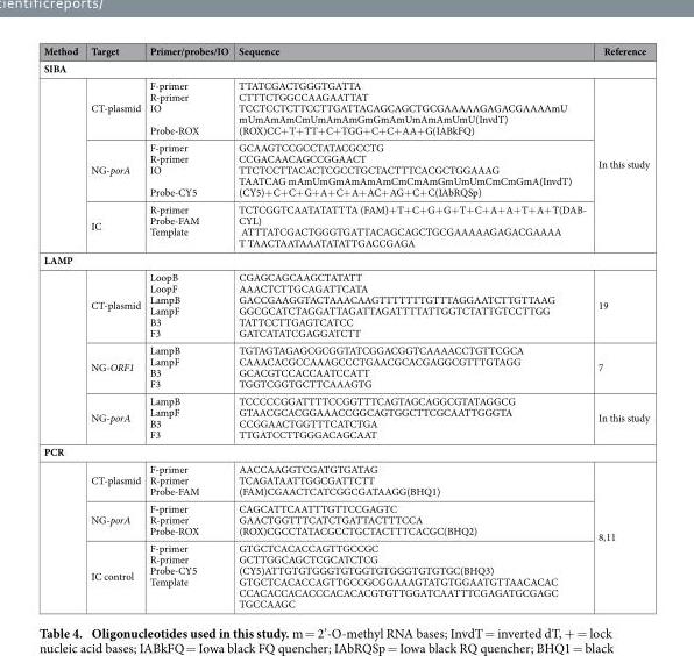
<table><thead><tr><td>Method</td><td>Target</td><td>Primer/probes/IO</td><td>Sequence</td><td>Reference</td></tr></thead><tbody><tr><td colspan="5">SIBA</td></tr><tr><td rowspan="3"></td><td>CT-plasmid</td><td>F-primer R-primer IO Probe-ROX</td><td>TTATCGACTGGGTGATTA CTTTCTGGCCAAGAATTAT TCCTCCTCTTCCTTGATTACAGCAGCTGCGAAAAAGAGACGAAAAmU mUmAmAmCmUmAmAmGmGmAmUmAmAmUmU(InvdT) (ROX)CC+ T+ TT+ C+ TGG+ C+ C+ AA+ G(IABkFQ)</td><td rowspan="3">In this study</td></tr><tr><td>NG-porA</td><td>F-primer R-primer IO Probe-CY5</td><td>GCAAGTCCGCCTATACGCCTG CCGACAACAGCCGGAACT TTCTCCTTACACTCGCCTGCTACTTTCACGCTGGAAAG TAATCAG mAmUmGmAmAmAmCmCmAmGmUmUmCmCmGmA(InvdT) (CY5)+ C+ C+ G+ A+ C+ A+ AC+ AG+ C+ C(IAbRQSp)</td></tr><tr><td>IC</td><td>R-primer Probe-FAM Template</td><td>TCTCGGTCAATATATTTA (FAM)+ T+ C+ G+ G+ T+ C+ A+ A+ T+ A+ T(DAB- CYL) ATTTATCGACTGGGTGATTACAGCAGCTGCGAAAAAGAGACGAAAA T TAACTAATAAATATATTGACCGAGA</td></tr><tr><td colspan="5">LAMP</td></tr><tr><td rowspan="3"></td><td>CT-plasmid</td><td>LoopB LoopF LampB LampF B3 F3</td><td>CGAGCAGCAAGCTATATT AAACTCTTGCAGATTCATA GACCGAAGGTACTAAACAAGTTTTTTTGTTTAGGAATCTTGTTAAG GGCGCATCTAGGATTAGATTAGATTTTATTGGTCTATTGTCCTTGG TATTCCTTGAGTCATCC GATCATATCGAGGATCTT</td><td>19</td></tr><tr><td>NG-ORF1</td><td>LampB LampF B3 F3</td><td>TGTAGTAGAGCGCGGTATCGGACGGTCAAAACCTGTTCGCA CAAACACGCCAAAGCCCTGAACGCACGAGGCGTTTGTAGG GCACGTCCACCAATCCATT TGGTCGGTGCTTCAAAGTG</td><td>7</td></tr><tr><td>NG-porA</td><td>LampB LampF B3 F3</td><td>TCCCCCGGATTTTCCGGTTTCAGTAGCAGGCGTATAGGCG GTAACGCACGGAAACCGGCAGTGGCTTCGCAATTGGGTA CCGGAACTGGTTTCATCTGA TTGATCCTTGGGACAGCAAT</td><td>In this study</td></tr><tr><td colspan="5">PCR</td></tr><tr><td rowspan="3"></td><td>CT-plasmid</td><td>F-primer R-primer Probe-FAM</td><td>AACCAAGGTCGATGTGATAG TCAGATAATTGGCGATTCTT (FAM)CGAACTCATCGGCGATAAGG(BHQ1)</td><td rowspan="3">8,11</td></tr><tr><td>NG-porA</td><td>F-primer R-primer Probe-ROX</td><td>CAGCATTCAATTTGTTCCGAGTC GAACTGGTTTCATCTGATTACTTTCCA (ROX)CGCCTATACGCCTGCTACTTTCACGC(BHQ2)</td></tr><tr><td>IC control</td><td>F-primer R-primer Probe-CY5 Template</td><td>GTGCTCACACCAGTTGCCGC GCTTGGCAGCTCGCATCTCG (CY5)ATTGTGTGGGTGTGGTGTGGGTGTGTGC(BHQ3) GTGCTCACACCAGTTGCCGCGGAAAGTATGTGGAATGTTAACACAC CCACACCACACCCACACACGTGTTGGATCAATTTCGAGATGCGAGC TGCCAAGC</td></tr></tbody></table>